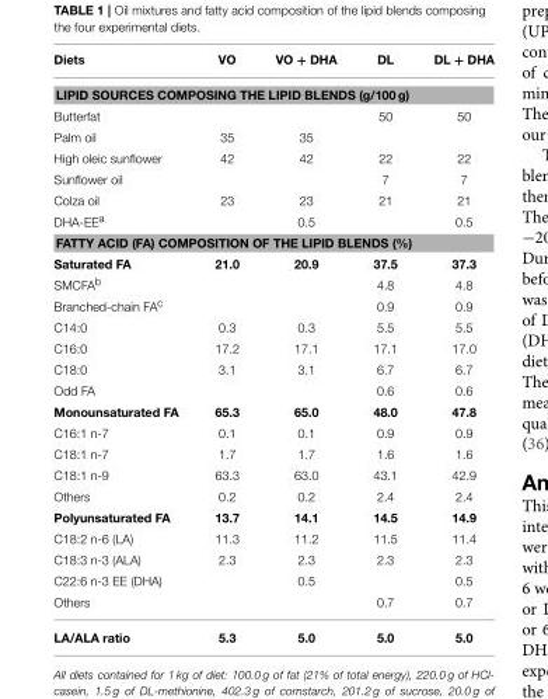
<table><thead><tr><td>Diets</td><td>VO</td><td>VO + DHA</td><td>DL</td><td>DL + DHA</td></tr></thead><tbody><tr><td colspan="5">LIPID SOURCES COMPOSING THE LIPID BLENDS (g/100 g)</td></tr><tr><td>Butterfat</td><td></td><td></td><td>50</td><td>50</td></tr><tr><td>Palm oil</td><td>35</td><td>35</td><td></td><td></td></tr><tr><td>High oleic sunflower</td><td>42</td><td>42</td><td>22</td><td>22</td></tr><tr><td>Sunflower oil</td><td></td><td></td><td>7</td><td>7</td></tr><tr><td>Colza oil</td><td>23</td><td>23</td><td>21</td><td>21</td></tr><tr><td>DHA-EE<sup>a</sup></td><td></td><td>0.5</td><td></td><td>0.5</td></tr><tr><td colspan="5">FATTY ACID (FA) COMPOSITION OF THE LIPID BLENDS (%)</td></tr><tr><td>Saturated FA</td><td>21.0</td><td>20.9</td><td>37.5</td><td>37.3</td></tr><tr><td>SMCFA<sup>b</sup></td><td></td><td></td><td>4.8</td><td>4.8</td></tr><tr><td>Branched-chain FA<sup>c</sup></td><td></td><td></td><td>0.9</td><td>0.9</td></tr><tr><td>C14:0</td><td>0.3</td><td>0.3</td><td>5.5</td><td>5.5</td></tr><tr><td>C16:0</td><td>17.2</td><td>17.1</td><td>17.1</td><td>17.0</td></tr><tr><td>C18:0</td><td>3.1</td><td>3.1</td><td>6.7</td><td>6.7</td></tr><tr><td>Odd FA</td><td></td><td></td><td>0.6</td><td>0.6</td></tr><tr><td>Monounsaturated FA</td><td>65.3</td><td>65.0</td><td>48.0</td><td>47.8</td></tr><tr><td>C16:1 n-7</td><td>0.1</td><td>0.1</td><td>0.9</td><td>0.9</td></tr><tr><td>C18:1 n-7</td><td>1.7</td><td>1.7</td><td>1.6</td><td>1.6</td></tr><tr><td>C18:1 n-9</td><td>63.3</td><td>63.0</td><td>43.1</td><td>42.9</td></tr><tr><td>Others</td><td>0.2</td><td>0.2</td><td>2.4</td><td>2.4</td></tr><tr><td>Polyunsaturated FA</td><td>13.7</td><td>14.1</td><td>14.5</td><td>14.9</td></tr><tr><td>C18:2 n-6 (LA)</td><td>11.3</td><td>11.2</td><td>11.5</td><td>11.4</td></tr><tr><td>C18:3 n-3 (ALA)</td><td>2.3</td><td>2.3</td><td>2.3</td><td>2.3</td></tr><tr><td>C22:6 n-3 EE (DHA)</td><td></td><td>0.5</td><td></td><td>0.5</td></tr><tr><td>Others</td><td></td><td></td><td>0.7</td><td>0.7</td></tr><tr><td>LA/ALA ratio</td><td>5.3</td><td>5.0</td><td>5.0</td><td>5.0</td></tr></tbody></table>